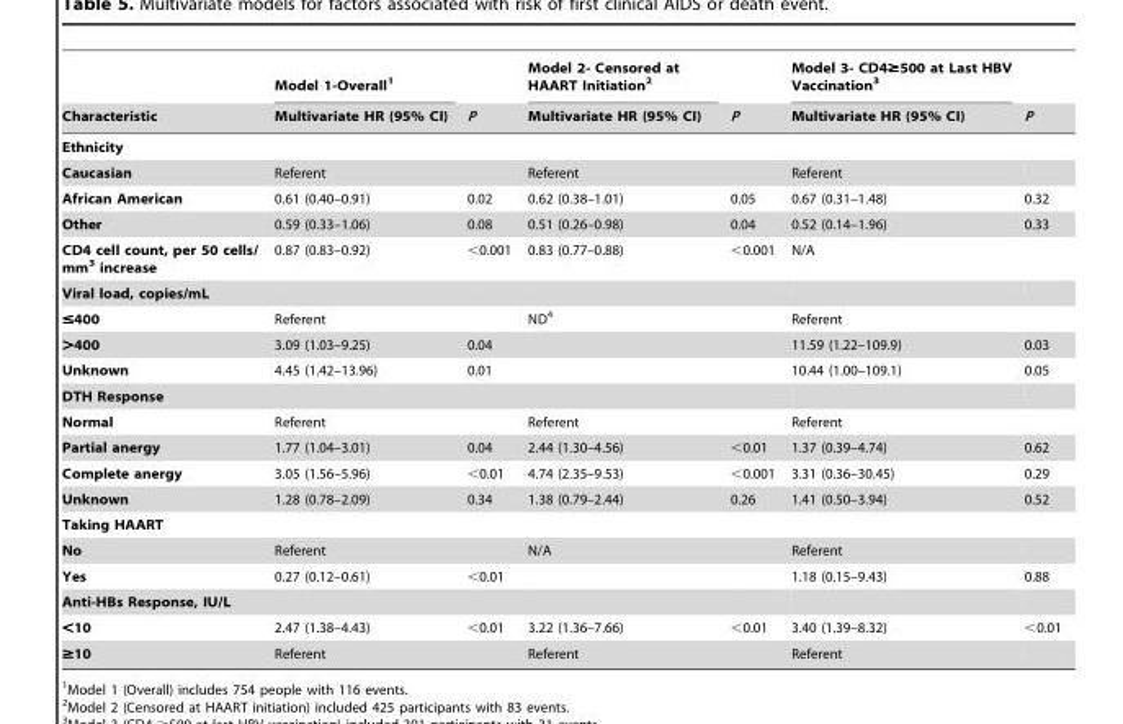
<table><thead><tr><td rowspan="2">Characteristic</td><td rowspan="2">Model 1-Overall<sup>1</sup> Multivariate HR (95% CI)</td><td rowspan="2">P</td><td rowspan="2">Model 2- Censored at HAART Initiation<sup>2</sup> Multivariate HR (95% CI)</td><td rowspan="2">P</td><td rowspan="2">Model 3- CD4≥500 at Last HBV Vaccination<sup>3</sup> Multivariate HR (95% CI)</td><td rowspan="2">P</td></tr><tr></tr></thead><tbody><tr><td colspan="7">Ethnicity</td></tr><tr><td>Caucasian</td><td>Referent</td><td></td><td>Referent</td><td></td><td>Referent</td><td></td></tr><tr><td>African American</td><td>0.61 (0.40–0.91)</td><td>0.02</td><td>0.62 (0.38–1.01)</td><td>0.05</td><td>0.67 (0.31–1.48)</td><td>0.32</td></tr><tr><td>Other</td><td>0.59 (0.33–1.06)</td><td>0.08</td><td>0.51 (0.26–0.98)</td><td>0.04</td><td>0.52 (0.14–1.96)</td><td>0.33</td></tr><tr><td>CD4 cell count, per 50 cells/ mm3 increase</td><td>0.87 (0.83–0.92)</td><td>&lt;0.001</td><td>0.83 (0.77–0.88)</td><td>&lt;0.001</td><td>N/A</td><td></td></tr><tr><td colspan="7">Viral load, copies/mL</td></tr><tr><td>≤400</td><td>Referent</td><td></td><td>ND<sup>4</sup></td><td></td><td>Referent</td><td></td></tr><tr><td>&gt;400</td><td>3.09 (1.03–9.25)</td><td>0.04</td><td></td><td></td><td>11.59 (1.22–109.9)</td><td>0.03</td></tr><tr><td>Unknown</td><td>4.45 (1.42–13.96)</td><td>0.01</td><td></td><td></td><td>10.44 (1.00–109.1)</td><td>0.05</td></tr><tr><td colspan="7">DTH Response</td></tr><tr><td>Normal</td><td>Referent</td><td></td><td>Referent</td><td></td><td>Referent</td><td></td></tr><tr><td>Partial anergy</td><td>1.77 (1.04–3.01)</td><td>0.04</td><td>2.44 (1.30–4.56)</td><td>&lt;0.01</td><td>1.37 (0.39–4.74)</td><td>0.62</td></tr><tr><td>Complete anergy</td><td>3.05 (1.56–5.96)</td><td>&lt;0.01</td><td>4.74 (2.35–9.53)</td><td>&lt;0.001</td><td>3.31 (0.36–30.45)</td><td>0.29</td></tr><tr><td>Unknown</td><td>1.28 (0.78–2.09)</td><td>0.34</td><td>1.38 (0.79–2.44)</td><td>0.26</td><td>1.41 (0.50–3.94)</td><td>0.52</td></tr><tr><td colspan="7">Taking HAART</td></tr><tr><td>No</td><td>Referent</td><td></td><td>N/A</td><td></td><td>Referent</td><td></td></tr><tr><td>Yes</td><td>0.27 (0.12–0.61)</td><td>&lt;0.01</td><td></td><td></td><td>1.18 (0.15–9.43)</td><td>0.88</td></tr><tr><td colspan="7">Anti-HBs Response, IU/L</td></tr><tr><td>&lt;10</td><td>2.47 (1.38–4.43)</td><td>&lt;0.01</td><td>3.22 (1.36–7.66)</td><td>&lt;0.01</td><td>3.40 (1.39–8.32)</td><td>&lt;0.01</td></tr><tr><td>≥10</td><td>Referent</td><td></td><td>Referent</td><td></td><td>Referent</td><td></td></tr></tbody></table>